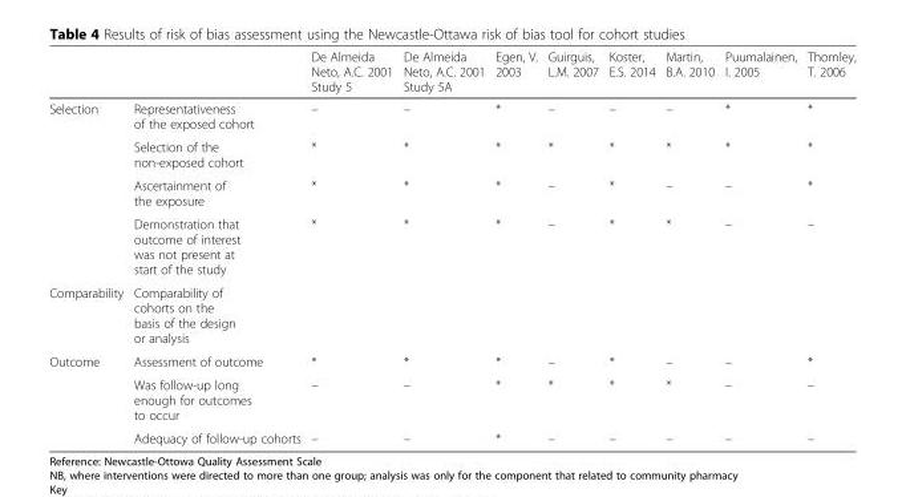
<table><thead><tr><td></td><td></td><td>De Almeida Neto, A.C. 2001 Study 5</td><td>De Almeida Neto, A.C. 2001 Study 5A</td><td>Egen, V. 2003</td><td>Guirguis, L.M. 2007</td><td>Koster, E.S. 2014</td><td>Martin, B.A. 2010</td><td>Puumalainen, I. 2005</td><td>Thornley, T. 2006</td></tr></thead><tbody><tr><td rowspan="4">Selection</td><td>Representativeness of the exposed cohort</td><td>–</td><td>–</td><td>*</td><td>–</td><td>–</td><td>–</td><td>*</td><td>*</td></tr><tr><td>Selection of the non-exposed cohort</td><td>*</td><td>*</td><td>*</td><td>*</td><td>*</td><td>*</td><td>*</td><td>*</td></tr><tr><td>Ascertainment of the exposure</td><td>*</td><td>*</td><td>*</td><td>–</td><td>*</td><td>–</td><td>–</td><td>*</td></tr><tr><td>Demonstration that outcome of interest was not present at start of the study</td><td>*</td><td>*</td><td>*</td><td>–</td><td>*</td><td>*</td><td>–</td><td>–</td></tr><tr><td>Comparability</td><td>Comparability of cohorts on the basis of the design or analysis</td><td></td><td></td><td></td><td></td><td></td><td></td><td></td><td></td></tr><tr><td rowspan="3">Outcome</td><td>Assessment of outcome</td><td>*</td><td>*</td><td>*</td><td>–</td><td>*</td><td>–</td><td>–</td><td>*</td></tr><tr><td>Was follow-up long enough for outcomes to occur</td><td>–</td><td>–</td><td>*</td><td>*</td><td>*</td><td>*</td><td>–</td><td>–</td></tr><tr><td>Adequacy of follow-up cohorts</td><td>–</td><td>–</td><td>*</td><td>–</td><td>–</td><td>–</td><td>–</td><td>–</td></tr></tbody></table>